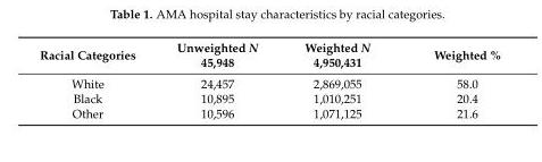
<table><thead><tr><td>Racial Categories</td><td>Unweighted N 45,948</td><td>Weighted N 4,950,431</td><td>Weighted %</td></tr></thead><tbody><tr><td>White</td><td>24,457</td><td>2,869,055</td><td>58.0</td></tr><tr><td>Black</td><td>10,895</td><td>1,010,251</td><td>20.4</td></tr><tr><td>Other</td><td>10,596</td><td>1,071,125</td><td>21.6</td></tr></tbody></table>